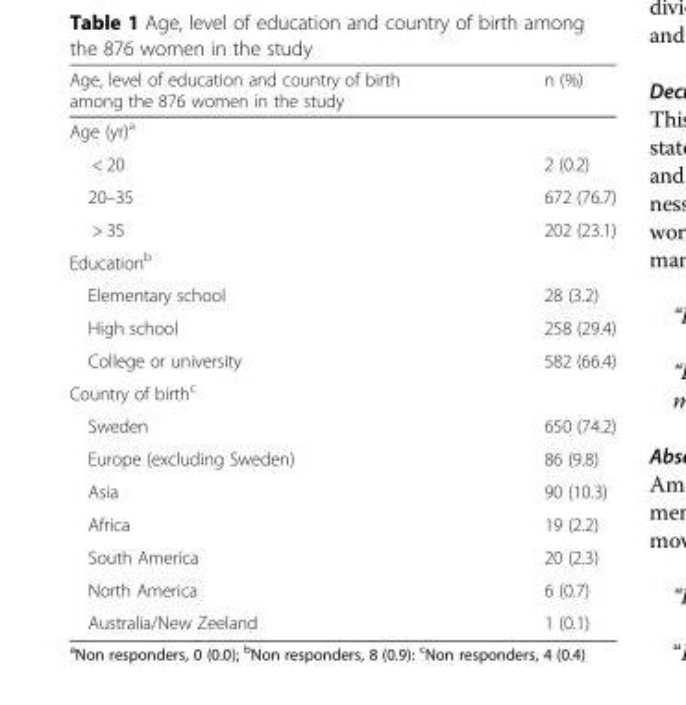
<table><thead><tr><td>Age, level of education and country of birth among the 876 women in the study</td><td>n (%)</td></tr></thead><tbody><tr><td colspan="2">Age (yr)<sup>a</sup></td></tr><tr><td>&lt; 20</td><td>2 (0.2)</td></tr><tr><td>20–35</td><td>672 (76.7)</td></tr><tr><td>&gt; 35</td><td>202 (23.1)</td></tr><tr><td colspan="2">Education<sup>b</sup></td></tr><tr><td>Elementary school</td><td>28 (3.2)</td></tr><tr><td>High school</td><td>258 (29.4)</td></tr><tr><td>College or university</td><td>582 (66.4)</td></tr><tr><td colspan="2">Country of birth<sup>c</sup></td></tr><tr><td>Sweden</td><td>650 (74.2)</td></tr><tr><td>Europe (excluding Sweden)</td><td>86 (9.8)</td></tr><tr><td>Asia</td><td>90 (10.3)</td></tr><tr><td>Africa</td><td>19 (2.2)</td></tr><tr><td>South America</td><td>20 (2.3)</td></tr><tr><td>North America</td><td>6 (0.7)</td></tr><tr><td>Australia/New Zeeland</td><td>1 (0.1)</td></tr></tbody></table>